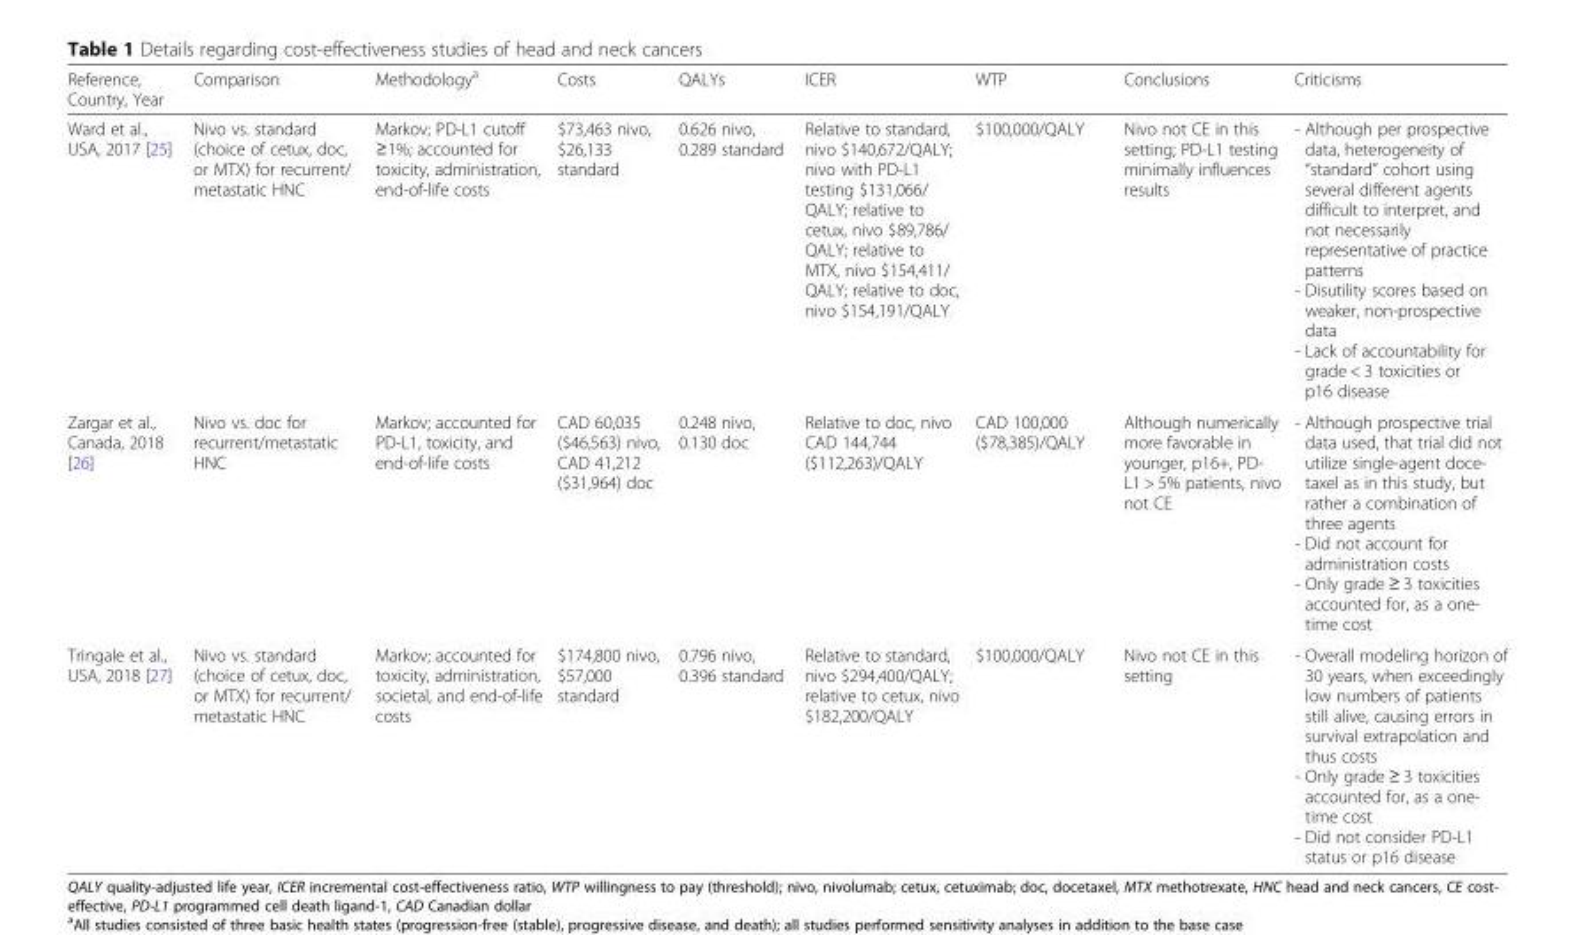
<table><thead><tr><td>Reference, Country, Year</td><td>Comparison</td><td>Methodology<sup>a</sup></td><td>Costs</td><td>QALYs</td><td>ICER</td><td>WTP</td><td>Conclusions</td><td>Criticisms</td></tr></thead><tbody><tr><td>Ward et al., USA, 2017 [25]</td><td>Nivo vs. standard (choice of cetux, doc, or MTX) for recurrent/ metastatic HNC</td><td>Markov; PD-L1 cutoff ≥1%; accounted for toxicity, administration, end-of-life costs</td><td>$73,463 nivo, $26,133 standard</td><td>0.626 nivo, 0.289 standard</td><td>Relative to standard, nivo $140,672/QALY; nivo with PD-L1 testing $131,066/ QALY; relative to cetux, nivo $89,786/ QALY; relative to MTX, nivo $154,411/ QALY; relative to doc, nivo $154,191/QALY</td><td>$100,000/QALY</td><td>Nivo not CE in this setting; PD-L1 testing minimally influences results</td><td>- Although per prospective data, heterogeneity of “standard” cohort using several different agents difficult to interpret, and not necessarily representative of practice patterns - Disutility scores based on weaker, non-prospective data - Lack of accountability for grade &lt; 3 toxicities or p16 disease</td></tr><tr><td>Zargar et al., Canada, 2018 [26]</td><td>Nivo vs. doc for recurrent/metastatic HNC</td><td>Markov; accounted for PD-L1, toxicity, and end-of-life costs</td><td>CAD 60,035 ($46,563) nivo, CAD 41,212 ($31,964) doc</td><td>0.248 nivo, 0.130 doc</td><td>Relative to doc, nivo CAD 144,744 ($112,263)/QALY</td><td>CAD 100,000 ($78,385)/QALY</td><td>Although numerically more favorable in younger, p16+, PD- L1 &gt; 5% patients, nivo not CE</td><td>- Although prospective trial data used, that trial did not utilize single-agent doce- taxel as in this study, but rather a combination of three agents - Did not account for administration costs - Only grade ≥ 3 toxicities accounted for, as a one- time cost</td></tr><tr><td>Tringale et al., USA, 2018 [27]</td><td>Nivo vs. standard (choice of cetux, doc, or MTX) for recurrent/ metastatic HNC</td><td>Markov; accounted for toxicity, administration, societal, and end-of-life costs</td><td>$174,800 nivo, $57,000 standard</td><td>0.796 nivo, 0.396 standard</td><td>Relative to standard, nivo $294,400/QALY; relative to cetux, nivo $182,200/QALY</td><td>$100,000/QALY</td><td>Nivo not CE in this setting</td><td>- Overall modeling horizon of 30 years, when exceedingly low numbers of patients still alive, causing errors in survival extrapolation and thus costs - Only grade ≥ 3 toxicities accounted for, as a one- time cost - Did not consider PD-L1 status or p16 disease</td></tr></tbody></table>